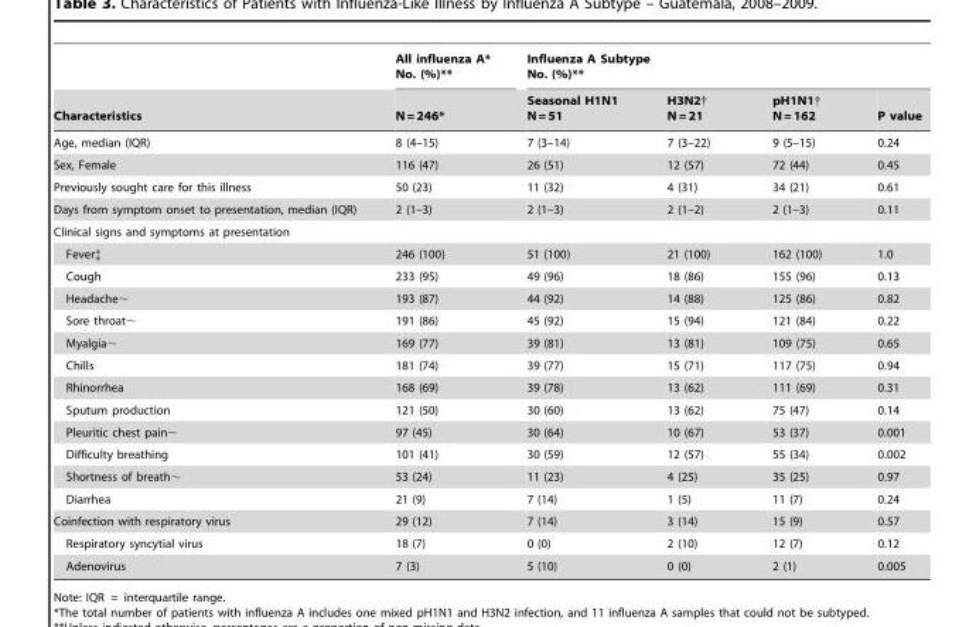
<table><thead><tr><td rowspan="2">Characteristics</td><td rowspan="2">All influenza A* No. (%)** N = 246*</td><td colspan="4">Influenza A Subtype No. (%)**</td></tr><tr><td>Seasonal H1N1 N = 51</td><td>H3N2† N = 21</td><td>pH1N1† N = 162</td><td>P value</td></tr></thead><tbody><tr><td>Age, median (IQR)</td><td>8 (4–15)</td><td>7 (3–14)</td><td>7 (3–22)</td><td>9 (5–15)</td><td>0.24</td></tr><tr><td>Sex, Female</td><td>116 (47)</td><td>26 (51)</td><td>12 (57)</td><td>72 (44)</td><td>0.45</td></tr><tr><td>Previously sought care for this illness</td><td>50 (23)</td><td>11 (32)</td><td>4 (31)</td><td>34 (21)</td><td>0.61</td></tr><tr><td>Days from symptom onset to presentation, median (IQR)</td><td>2 (1–3)</td><td>2 (1–3)</td><td>2 (1–2)</td><td>2 (1–3)</td><td>0.11</td></tr><tr><td colspan="6">Clinical signs and symptoms at presentation</td></tr><tr><td>Fever‡</td><td>246 (100)</td><td>51 (100)</td><td>21 (100)</td><td>162 (100)</td><td>1.0</td></tr><tr><td>Cough</td><td>233 (95)</td><td>49 (96)</td><td>18 (86)</td><td>155 (96)</td><td>0.13</td></tr><tr><td>Headache∼</td><td>193 (87)</td><td>44 (92)</td><td>14 (88)</td><td>125 (86)</td><td>0.82</td></tr><tr><td>Sore throat∼</td><td>191 (86)</td><td>45 (92)</td><td>15 (94)</td><td>121 (84)</td><td>0.22</td></tr><tr><td>Myalgia∼</td><td>169 (77)</td><td>39 (81)</td><td>13 (81)</td><td>109 (75)</td><td>0.65</td></tr><tr><td>Chills</td><td>181 (74)</td><td>39 (77)</td><td>15 (71)</td><td>117 (75)</td><td>0.94</td></tr><tr><td>Rhinorrhea</td><td>168 (69)</td><td>39 (78)</td><td>13 (62)</td><td>111 (69)</td><td>0.31</td></tr><tr><td>Sputum production</td><td>121 (50)</td><td>30 (60)</td><td>13 (62)</td><td>75 (47)</td><td>0.14</td></tr><tr><td>Pleuritic chest pain∼</td><td>97 (45)</td><td>30 (64)</td><td>10 (67)</td><td>53 (37)</td><td>0.001</td></tr><tr><td>Difficulty breathing</td><td>101 (41)</td><td>30 (59)</td><td>12 (57)</td><td>55 (34)</td><td>0.002</td></tr><tr><td>Shortness of breath∼</td><td>53 (24)</td><td>11 (23)</td><td>4 (25)</td><td>35 (25)</td><td>0.97</td></tr><tr><td>Diarrhea</td><td>21 (9)</td><td>7 (14)</td><td>1 (5)</td><td>11 (7)</td><td>0.24</td></tr><tr><td>Coinfection with respiratory virus</td><td>29 (12)</td><td>7 (14)</td><td>3 (14)</td><td>15 (9)</td><td>0.57</td></tr><tr><td>Respiratory syncytial virus</td><td>18 (7)</td><td>0 (0)</td><td>2 (10)</td><td>12 (7)</td><td>0.12</td></tr><tr><td>Adenovirus</td><td>7 (3)</td><td>5 (10)</td><td>0 (0)</td><td>2 (1)</td><td>0.005</td></tr></tbody></table>